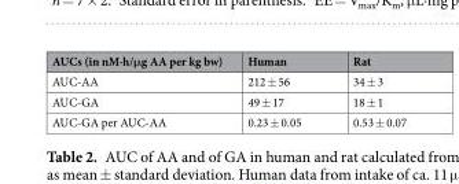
<table><thead><tr><td>AUCs (in nM·h/μg AA per kg bw)</td><td>Human</td><td>Rat</td></tr></thead><tbody><tr><td>AUC-AA</td><td>212 ± 56</td><td>34 ± 3</td></tr><tr><td>AUC-GA</td><td>49 ± 17</td><td>18 ± 1</td></tr><tr><td>AUC-GA per AUC-AA</td><td>0.23 ± 0.05</td><td>0.53 ± 0.07</td></tr></tbody></table>